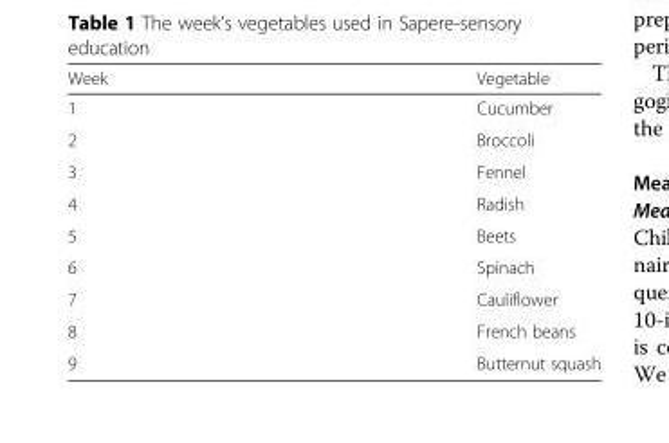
<table><thead><tr><td>Week</td><td>Vegetable</td></tr></thead><tbody><tr><td>1</td><td>Cucumber</td></tr><tr><td>2</td><td>Broccoli</td></tr><tr><td>3</td><td>Fennel</td></tr><tr><td>4</td><td>Radish</td></tr><tr><td>5</td><td>Beets</td></tr><tr><td>6</td><td>Spinach</td></tr><tr><td>7</td><td>Cauliflower</td></tr><tr><td>8</td><td>French beans</td></tr><tr><td>9</td><td>Butternut squash</td></tr></tbody></table>